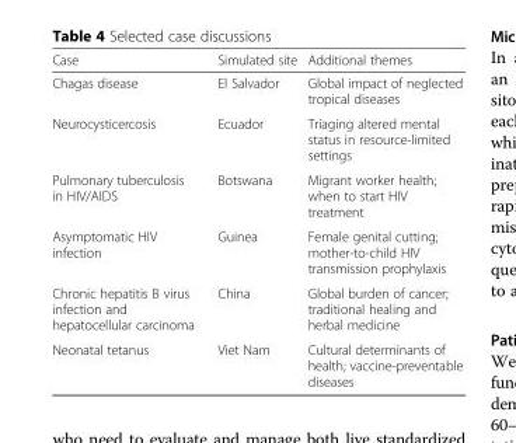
<table><thead><tr><td>Case</td><td>Simulated site</td><td>Additional themes</td></tr></thead><tbody><tr><td>Chagas disease</td><td>El Salvador</td><td>Global impact of neglected tropical diseases</td></tr><tr><td>Neurocysticercosis</td><td>Ecuador</td><td>Triaging altered mental status in resource-limited settings</td></tr><tr><td>Pulmonary tuberculosis in HIV/AIDS</td><td>Botswana</td><td>Migrant worker health; when to start HIV treatment</td></tr><tr><td>Asymptomatic HIV infection</td><td>Guinea</td><td>Female genital cutting; mother-to-child HIV transmission prophylaxis</td></tr><tr><td>Chronic hepatitis B virus infection and hepatocellular carcinoma</td><td>China</td><td>Global burden of cancer; traditional healing and herbal medicine</td></tr><tr><td>Neonatal tetanus</td><td>Viet Nam</td><td>Cultural determinants of health; vaccine-preventable diseases</td></tr></tbody></table>